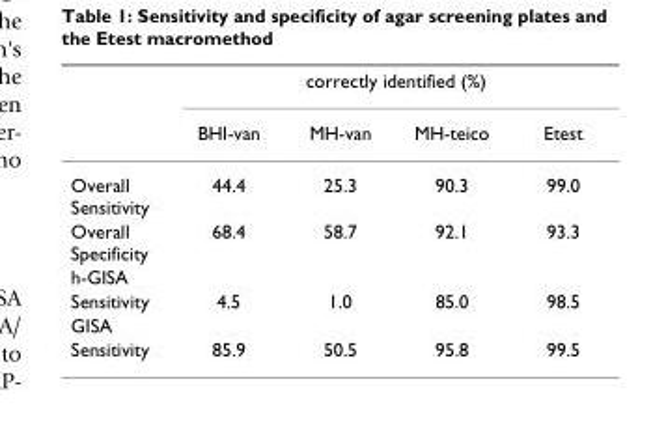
<table><thead><tr><td rowspan="2"></td><td colspan="4">correctly identified (%)</td></tr><tr><td>BHI-van</td><td>MH-van</td><td>MH-teico</td><td>Etest</td></tr></thead><tbody><tr><td>Overall Sensitivity</td><td>44.4</td><td>25.3</td><td>90.3</td><td>99.0</td></tr><tr><td>Overall Specificity</td><td>68.4</td><td>58.7</td><td>92.1</td><td>93.3</td></tr><tr><td colspan="5">h-GISA</td></tr><tr><td>Sensitivity</td><td>4.5</td><td>1.0</td><td>85.0</td><td>98.5</td></tr><tr><td colspan="5">GISA</td></tr><tr><td>Sensitivity</td><td>85.9</td><td>50.5</td><td>95.8</td><td>99.5</td></tr></tbody></table>